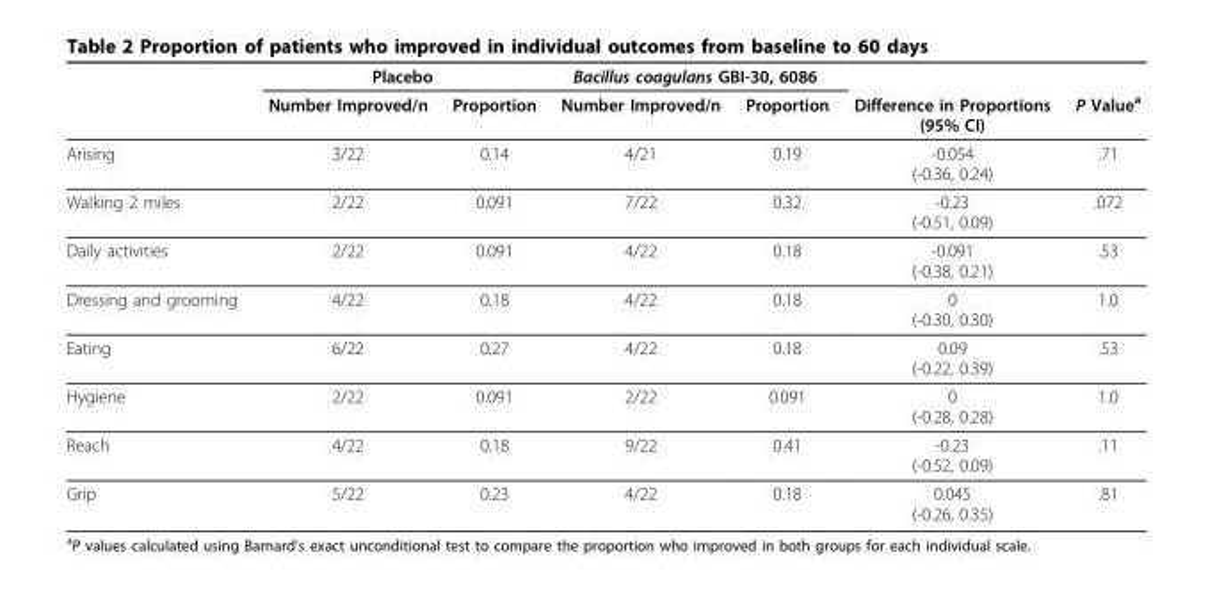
<table><thead><tr><td rowspan="2"></td><td colspan="2">Placebo</td><td colspan="2">Bacillus coagulans GBI-30, 6086</td><td rowspan="2">Difference in Proportions (95% CI)</td><td rowspan="2">P Value<sup>a</sup></td></tr><tr><td>Number Improved/n</td><td>Proportion</td><td>Number Improved/n</td><td>Proportion</td></tr></thead><tbody><tr><td>Arising</td><td>3/22</td><td>0.14</td><td>4/21</td><td>0.19</td><td>-0.054 (-0.36, 0.24)</td><td>.71</td></tr><tr><td>Walking 2 miles</td><td>2/22</td><td>0.091</td><td>7/22</td><td>0.32</td><td>-0.23 (-0.51, 0.09)</td><td>.072</td></tr><tr><td>Daily activities</td><td>2/22</td><td>0.091</td><td>4/22</td><td>0.18</td><td>-0.091 (-0.38, 0.21)</td><td>.53</td></tr><tr><td>Dressing and grooming</td><td>4/22</td><td>0.18</td><td>4/22</td><td>0.18</td><td>0 (-0.30, 0.30)</td><td>1.0</td></tr><tr><td>Eating</td><td>6/22</td><td>0.27</td><td>4/22</td><td>0.18</td><td>0.09 (-0.22, 0.39)</td><td>.53</td></tr><tr><td>Hygiene</td><td>2/22</td><td>0.091</td><td>2/22</td><td>0.091</td><td>0 (-0.28, 0.28)</td><td>1.0</td></tr><tr><td>Reach</td><td>4/22</td><td>0.18</td><td>9/22</td><td>0.41</td><td>-0.23 (-0.52, 0.09)</td><td>.11</td></tr><tr><td>Grip</td><td>5/22</td><td>0.23</td><td>4/22</td><td>0.18</td><td>0.045 (-0.26, 0.35)</td><td>.81</td></tr></tbody></table>